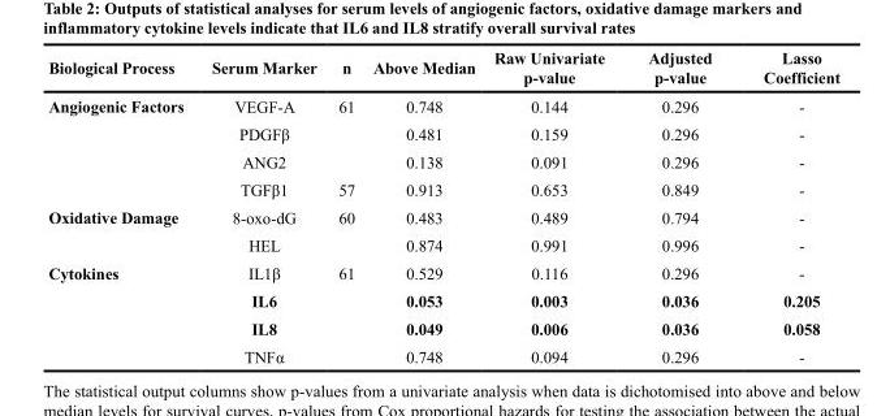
<table><thead><tr><td>Biological Process</td><td>Serum Marker</td><td>n</td><td>Above Median</td><td>Raw Univariate p-value</td><td>Adjusted p-value</td><td>Lasso Coefficient</td></tr></thead><tbody><tr><td rowspan="4">Angiogenic Factors</td><td>VEGF-A</td><td>61</td><td>0.748</td><td>0.144</td><td>0.296</td><td>-</td></tr><tr><td>PDGFβ</td><td></td><td>0.481</td><td>0.159</td><td>0.296</td><td>-</td></tr><tr><td>ANG2</td><td></td><td>0.138</td><td>0.091</td><td>0.296</td><td>-</td></tr><tr><td>TGFβ1</td><td>57</td><td>0.913</td><td>0.653</td><td>0.849</td><td>-</td></tr><tr><td rowspan="2">Oxidative Damage</td><td>8-oxo-dG</td><td>60</td><td>0.483</td><td>0.489</td><td>0.794</td><td>-</td></tr><tr><td>HEL</td><td></td><td>0.874</td><td>0.991</td><td>0.996</td><td>-</td></tr><tr><td rowspan="4">Cytokines</td><td>IL1β</td><td>61</td><td>0.529</td><td>0.116</td><td>0.296</td><td>-</td></tr><tr><td>IL6</td><td></td><td>0.053</td><td>0.003</td><td>0.036</td><td>0.205</td></tr><tr><td>IL8</td><td></td><td>0.049</td><td>0.006</td><td>0.036</td><td>0.058</td></tr><tr><td>TNFα</td><td></td><td>0.748</td><td>0.094</td><td>0.296</td><td>-</td></tr></tbody></table>